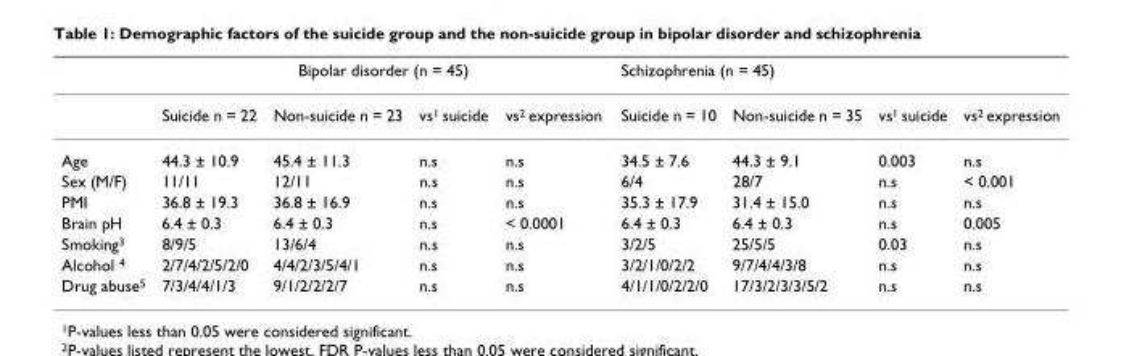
<table><thead><tr><td rowspan="2"></td><td colspan="4">Bipolar disorder (n = 45)</td><td colspan="4">Schizophrenia (n = 45)</td></tr><tr><td>Suicide n = 22</td><td>Non-suicide n = 23</td><td>vs<sup>1</sup> suicide</td><td>vs<sup>2</sup> expression</td><td>Suicide n = 10</td><td>Non-suicide n = 35</td><td>vs<sup>1</sup> suicide</td><td>vs<sup>2</sup> expression</td></tr></thead><tbody><tr><td>Age</td><td>44.3 ± 10.9</td><td>45.4 ± 11.3</td><td>n.s</td><td>n.s</td><td>34.5 ± 7.6</td><td>44.3 ± 9.1</td><td>0.003</td><td>n.s</td></tr><tr><td>Sex (M/F)</td><td>11/11</td><td>12/11</td><td>n.s</td><td>n.s</td><td>6/4</td><td>28/7</td><td>n.s</td><td>&lt; 0.001</td></tr><tr><td>PMI</td><td>36.8 ± 19.3</td><td>36.8 ± 16.9</td><td>n.s</td><td>n.s</td><td>35.3 ± 17.9</td><td>31.4 ± 15.0</td><td>n.s</td><td>n.s</td></tr><tr><td>Brain pH</td><td>6.4 ± 0.3</td><td>6.4 ± 0.3</td><td>n.s</td><td>&lt; 0.0001</td><td>6.4 ± 0.3</td><td>6.4 ± 0.3</td><td>n.s</td><td>0.005</td></tr><tr><td>Smoking<sup>3</sup></td><td>8/9/5</td><td>13/6/4</td><td>n.s</td><td>n.s</td><td>3/2/5</td><td>25/5/5</td><td>0.03</td><td>n.s</td></tr><tr><td>Alcohol <sup>4</sup></td><td>2/7/4/2/5/2/0</td><td>4/4/2/3/5/4/1</td><td>n.s</td><td>n.s</td><td>3/2/1/0/2/2</td><td>9/7/4/4/3/8</td><td>n.s</td><td>n.s</td></tr><tr><td>Drug abuse<sup>5</sup></td><td>7/3/4/4/1/3</td><td>9/1/2/2/2/7</td><td>n.s</td><td>n.s</td><td>4/1/1/0/2/2/0</td><td>17/3/2/3/3/5/2</td><td>n.s</td><td>n.s</td></tr></tbody></table>